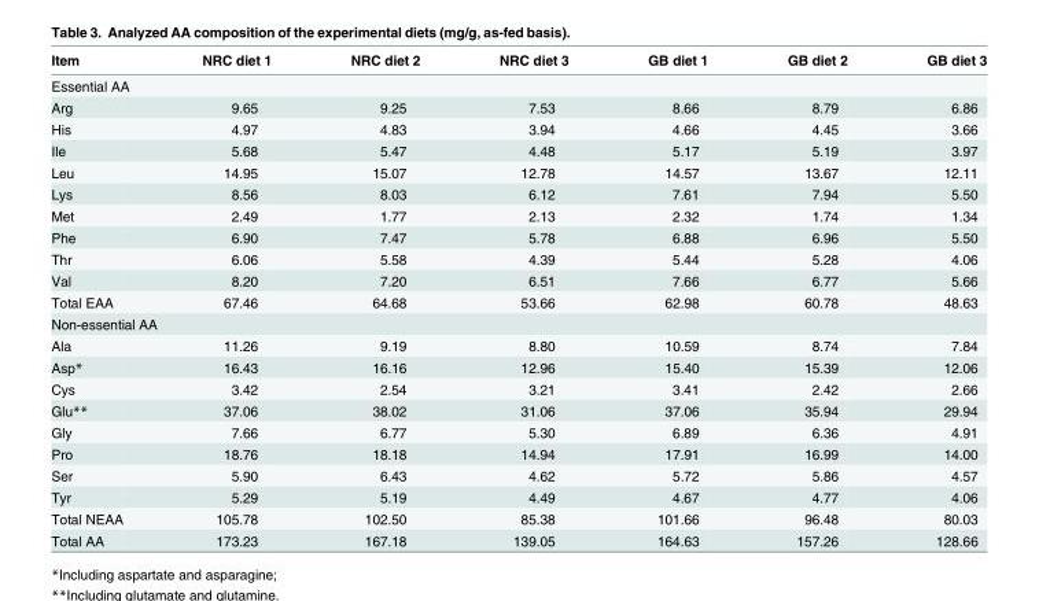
<table><thead><tr><td>Item</td><td>NRC diet 1</td><td>NRC diet 2</td><td>NRC diet 3</td><td>GB diet 1</td><td>GB diet 2</td><td>GB diet 3</td></tr></thead><tbody><tr><td colspan="7">Essential AA</td></tr><tr><td>Arg</td><td>9.65</td><td>9.25</td><td>7.53</td><td>8.66</td><td>8.79</td><td>6.86</td></tr><tr><td>His</td><td>4.97</td><td>4.83</td><td>3.94</td><td>4.66</td><td>4.45</td><td>3.66</td></tr><tr><td>Ile</td><td>5.68</td><td>5.47</td><td>4.48</td><td>5.17</td><td>5.19</td><td>3.97</td></tr><tr><td>Leu</td><td>14.95</td><td>15.07</td><td>12.78</td><td>14.57</td><td>13.67</td><td>12.11</td></tr><tr><td>Lys</td><td>8.56</td><td>8.03</td><td>6.12</td><td>7.61</td><td>7.94</td><td>5.50</td></tr><tr><td>Met</td><td>2.49</td><td>1.77</td><td>2.13</td><td>2.32</td><td>1.74</td><td>1.34</td></tr><tr><td>Phe</td><td>6.90</td><td>7.47</td><td>5.78</td><td>6.88</td><td>6.96</td><td>5.50</td></tr><tr><td>Thr</td><td>6.06</td><td>5.58</td><td>4.39</td><td>5.44</td><td>5.28</td><td>4.06</td></tr><tr><td>Val</td><td>8.20</td><td>7.20</td><td>6.51</td><td>7.66</td><td>6.77</td><td>5.66</td></tr><tr><td>Total EAA</td><td>67.46</td><td>64.68</td><td>53.66</td><td>62.98</td><td>60.78</td><td>48.63</td></tr><tr><td colspan="7">Non-essential AA</td></tr><tr><td>Ala</td><td>11.26</td><td>9.19</td><td>8.80</td><td>10.59</td><td>8.74</td><td>7.84</td></tr><tr><td>Asp*</td><td>16.43</td><td>16.16</td><td>12.96</td><td>15.40</td><td>15.39</td><td>12.06</td></tr><tr><td>Cys</td><td>3.42</td><td>2.54</td><td>3.21</td><td>3.41</td><td>2.42</td><td>2.66</td></tr><tr><td>Glu**</td><td>37.06</td><td>38.02</td><td>31.06</td><td>37.06</td><td>35.94</td><td>29.94</td></tr><tr><td>Gly</td><td>7.66</td><td>6.77</td><td>5.30</td><td>6.89</td><td>6.36</td><td>4.91</td></tr><tr><td>Pro</td><td>18.76</td><td>18.18</td><td>14.94</td><td>17.91</td><td>16.99</td><td>14.00</td></tr><tr><td>Ser</td><td>5.90</td><td>6.43</td><td>4.62</td><td>5.72</td><td>5.86</td><td>4.57</td></tr><tr><td>Tyr</td><td>5.29</td><td>5.19</td><td>4.49</td><td>4.67</td><td>4.77</td><td>4.06</td></tr><tr><td>Total NEAA</td><td>105.78</td><td>102.50</td><td>85.38</td><td>101.66</td><td>96.48</td><td>80.03</td></tr><tr><td>Total AA</td><td>173.23</td><td>167.18</td><td>139.05</td><td>164.63</td><td>157.26</td><td>128.66</td></tr></tbody></table>